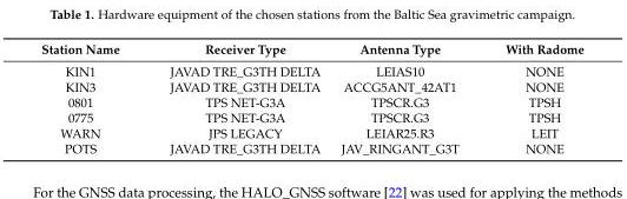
<table><thead><tr><td>Station Name</td><td>Receiver Type</td><td>Antenna Type</td><td>With Radome</td></tr></thead><tbody><tr><td>KIN1</td><td>JAVAD TRE_G3TH DELTA</td><td>LEIAS10</td><td>NONE</td></tr><tr><td>KIN3</td><td>JAVAD TRE_G3TH DELTA</td><td>ACCG5ANT_42AT1</td><td>NONE</td></tr><tr><td>0801</td><td>TPS NET-G3A</td><td>TPSCR.G3</td><td>TPSH</td></tr><tr><td>0775</td><td>TPS NET-G3A</td><td>TPSCR.G3</td><td>TPSH</td></tr><tr><td>WARN</td><td>JPS LEGACY</td><td>LEIAR25.R3</td><td>LEIT</td></tr><tr><td>POTS</td><td>JAVAD TRE_G3TH DELTA</td><td>JAV_RINGANT_G3T</td><td>NONE</td></tr></tbody></table>